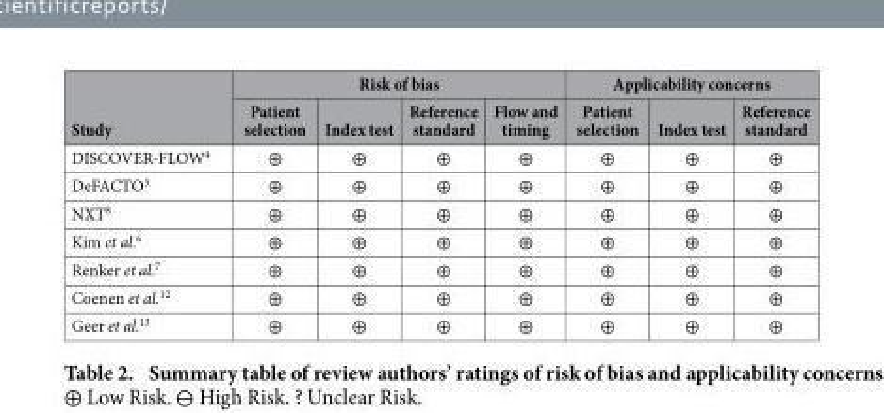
<table><thead><tr><td rowspan="2">Study</td><td colspan="4">Risk of bias</td><td colspan="3">Applicability concerns</td></tr><tr><td>Patient selection</td><td>Index test</td><td>Reference standard</td><td>Flow and timing</td><td>Patient selection</td><td>Index test</td><td>Reference standard</td></tr></thead><tbody><tr><td>DISCOVER-FLOW<sup>4</sup></td><td>⊕</td><td>⊕</td><td>⊕</td><td>⊕</td><td>⊕</td><td>⊕</td><td>⊕</td></tr><tr><td>DeFACTO<sup>5</sup></td><td>⊕</td><td>⊕</td><td>⊕</td><td>⊕</td><td>⊕</td><td>⊕</td><td>⊕</td></tr><tr><td>NXT<sup>8</sup></td><td>⊕</td><td>⊕</td><td>⊕</td><td>⊕</td><td>⊕</td><td>⊕</td><td>⊕</td></tr><tr><td>Kim et al.<sup>6</sup></td><td>⊕</td><td>⊕</td><td>⊕</td><td>⊕</td><td>⊕</td><td>⊕</td><td>⊕</td></tr><tr><td>Renker et al.<sup>7</sup></td><td>⊕</td><td>⊕</td><td>⊕</td><td>⊕</td><td>⊕</td><td>⊕</td><td>⊕</td></tr><tr><td>Coenen et al.<sup>12</sup></td><td>⊕</td><td>⊕</td><td>⊕</td><td>⊕</td><td>⊕</td><td>⊕</td><td>⊕</td></tr><tr><td>Geer et al.<sup>13</sup></td><td>⊕</td><td>⊕</td><td>⊕</td><td>⊕</td><td>⊕</td><td>⊕</td><td>⊕</td></tr></tbody></table>